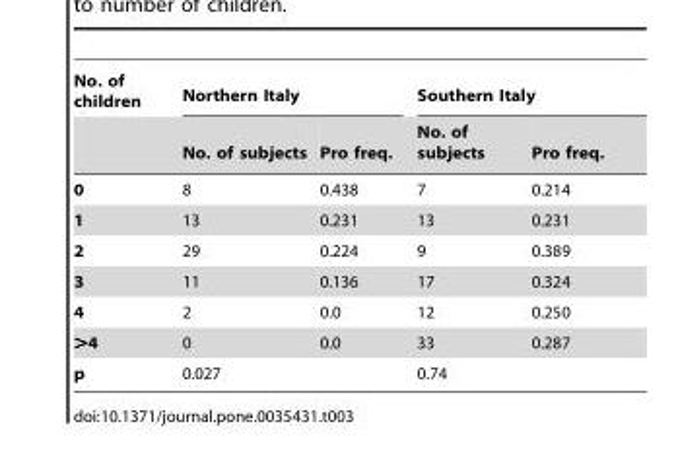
<table><thead><tr><td rowspan="2">No. of children</td><td colspan="2">Northern Italy</td><td colspan="2">Southern Italy</td></tr><tr><td>No. of subjects</td><td>Pro freq.</td><td>No. of subjects</td><td>Pro freq.</td></tr></thead><tbody><tr><td>0</td><td>8</td><td>0.438</td><td>7</td><td>0.214</td></tr><tr><td>1</td><td>13</td><td>0.231</td><td>13</td><td>0.231</td></tr><tr><td>2</td><td>29</td><td>0.224</td><td>9</td><td>0.389</td></tr><tr><td>3</td><td>11</td><td>0.136</td><td>17</td><td>0.324</td></tr><tr><td>4</td><td>2</td><td>0.0</td><td>12</td><td>0.250</td></tr><tr><td>&gt;4</td><td>0</td><td>0.0</td><td>33</td><td>0.287</td></tr><tr><td>p</td><td colspan="2">0.027</td><td colspan="2">0.74</td></tr></tbody></table>